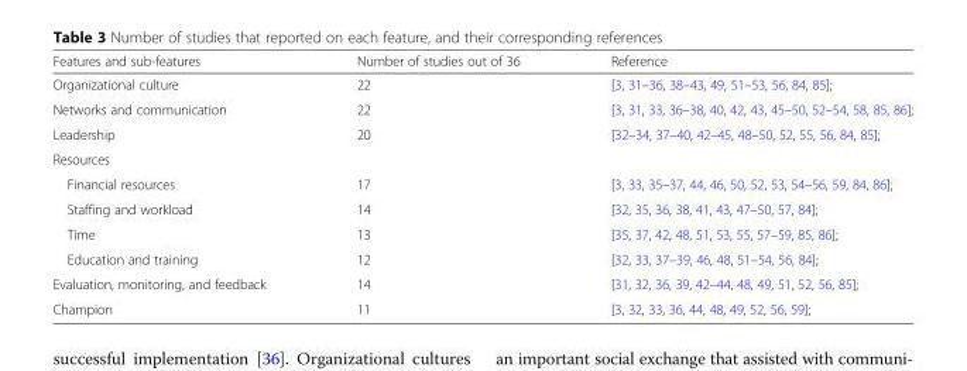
<table><thead><tr><td>Features and sub-features</td><td>Number of studies out of 36</td><td>Reference</td></tr></thead><tbody><tr><td>Organizational culture</td><td>22</td><td>[3, 31–36, 38–43, 49, 51–53, 56, 84, 85];</td></tr><tr><td>Networks and communication</td><td>22</td><td>[3, 31, 33, 36–38, 40, 42, 43, 45–50, 52–54, 58, 85, 86];</td></tr><tr><td>Leadership</td><td>20</td><td>[32–34, 37–40, 42–45, 48–50, 52, 55, 56, 84, 85];</td></tr><tr><td colspan="3">Resources</td></tr><tr><td>Financial resources</td><td>17</td><td>[3, 33, 35–37, 44, 46, 50, 52, 53, 54–56, 59, 84, 86];</td></tr><tr><td>Staffing and workload</td><td>14</td><td>[32, 35, 36, 38, 41, 43, 47–50, 57, 84];</td></tr><tr><td>Time</td><td>13</td><td>[35, 37, 42, 48, 51, 53, 55, 57–59, 85, 86];</td></tr><tr><td>Education and training</td><td>12</td><td>[32, 33, 37–39, 46, 48, 51–54, 56, 84];</td></tr><tr><td>Evaluation, monitoring, and feedback</td><td>14</td><td>[31, 32, 36, 39, 42–44, 48, 49, 51, 52, 56, 85];</td></tr><tr><td>Champion</td><td>11</td><td>[3, 32, 33, 36, 44, 48, 49, 52, 56, 59];</td></tr></tbody></table>